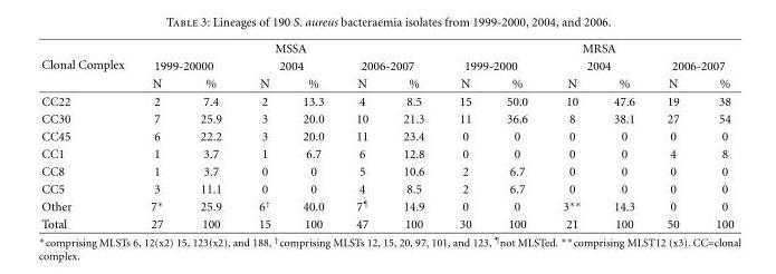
<table><thead><tr><td rowspan="3">Clonal Complex</td><td colspan="6">MSSA</td><td colspan="6">MRSA</td></tr><tr><td colspan="2">1999-20000</td><td colspan="2">2004</td><td colspan="2">2006-2007</td><td colspan="2">1999-2000</td><td colspan="2">2004</td><td colspan="2">2006-2007</td></tr><tr><td>N</td><td>%</td><td>N</td><td>%</td><td>N</td><td>%</td><td>N</td><td>%</td><td>N</td><td>%</td><td>N</td><td>%</td></tr></thead><tbody><tr><td>CC22</td><td>2</td><td>7.4</td><td>2</td><td>13.3</td><td>4</td><td>8.5</td><td>15</td><td>50.0</td><td>10</td><td>47.6</td><td>19</td><td>38</td></tr><tr><td>CC30</td><td>7</td><td>25.9</td><td>3</td><td>20.0</td><td>10</td><td>21.3</td><td>11</td><td>36.6</td><td>8</td><td>38.1</td><td>27</td><td>54</td></tr><tr><td>CC45</td><td>6</td><td>22.2</td><td>3</td><td>20.0</td><td>11</td><td>23.4</td><td>0</td><td>0</td><td>0</td><td>0</td><td>0</td><td>0</td></tr><tr><td>CC1</td><td>1</td><td>3.7</td><td>1</td><td>6.7</td><td>6</td><td>12.8</td><td>0</td><td>0</td><td>0</td><td>0</td><td>4</td><td>8</td></tr><tr><td>CC8</td><td>1</td><td>3.7</td><td>0</td><td>0</td><td>5</td><td>10.6</td><td>2</td><td>6.7</td><td>0</td><td>0</td><td>0</td><td>0</td></tr><tr><td>CC5</td><td>3</td><td>11.1</td><td>0</td><td>0</td><td>4</td><td>8.5</td><td>2</td><td>6.7</td><td>0</td><td>0</td><td>0</td><td>0</td></tr><tr><td>Other</td><td>7∗</td><td>25.9</td><td>6<sup>†</sup></td><td>40.0</td><td>7<sup>¶</sup></td><td>14.9</td><td>0</td><td>0</td><td>3∗∗</td><td>14.3</td><td>0</td><td>0</td></tr><tr><td>Total</td><td>27</td><td>100</td><td>15</td><td>100</td><td>47</td><td>100</td><td>30</td><td>100</td><td>21</td><td>100</td><td>50</td><td>100</td></tr></tbody></table>